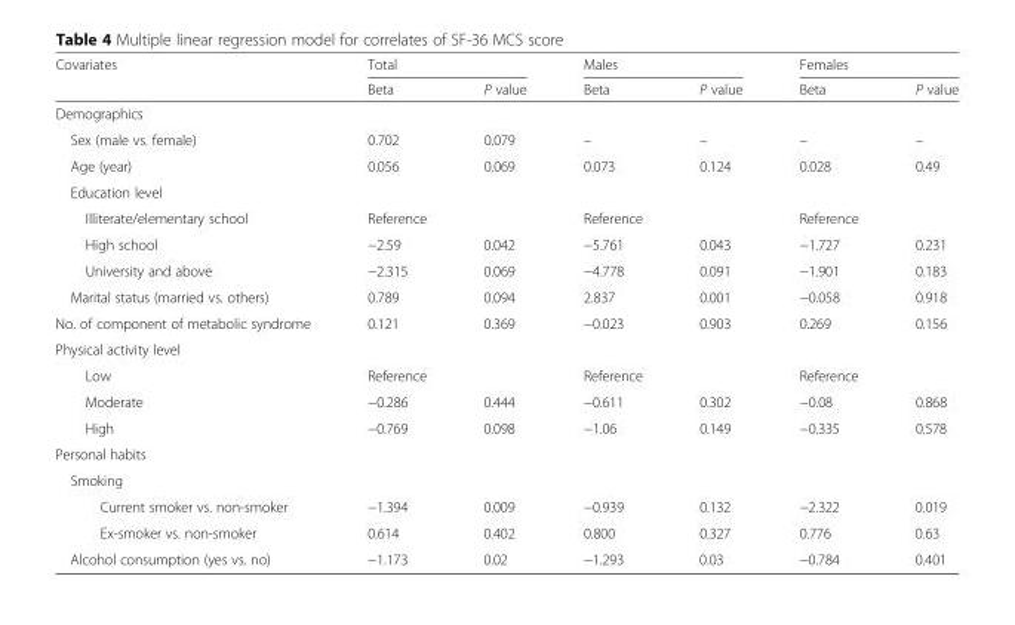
<table><thead><tr><td rowspan="2">Covariates</td><td colspan="2">Total</td><td colspan="2">Males</td><td colspan="2">Females</td></tr><tr><td>Beta</td><td>P value</td><td>Beta</td><td>P value</td><td>Beta</td><td>P value</td></tr></thead><tbody><tr><td colspan="7">Demographics</td></tr><tr><td>Sex (male vs. female)</td><td>0.702</td><td>0.079</td><td>–</td><td>–</td><td>–</td><td>–</td></tr><tr><td>Age (year)</td><td>0.056</td><td>0.069</td><td>0.073</td><td>0.124</td><td>0.028</td><td>0.49</td></tr><tr><td colspan="7">Education level</td></tr><tr><td>Illiterate/elementary school</td><td>Reference</td><td></td><td>Reference</td><td></td><td>Reference</td><td></td></tr><tr><td>High school</td><td>−2.59</td><td>0.042</td><td>−5.761</td><td>0.043</td><td>−1.727</td><td>0.231</td></tr><tr><td>University and above</td><td>−2.315</td><td>0.069</td><td>−4.778</td><td>0.091</td><td>−1.901</td><td>0.183</td></tr><tr><td>Marital status (married vs. others)</td><td>0.789</td><td>0.094</td><td>2.837</td><td>0.001</td><td>−0.058</td><td>0.918</td></tr><tr><td>No. of component of metabolic syndrome</td><td>0.121</td><td>0.369</td><td>−0.023</td><td>0.903</td><td>0.269</td><td>0.156</td></tr><tr><td colspan="7">Physical activity level</td></tr><tr><td>Low</td><td>Reference</td><td></td><td>Reference</td><td></td><td>Reference</td><td></td></tr><tr><td>Moderate</td><td>−0.286</td><td>0.444</td><td>−0.611</td><td>0.302</td><td>−0.08</td><td>0.868</td></tr><tr><td>High</td><td>−0.769</td><td>0.098</td><td>−1.06</td><td>0.149</td><td>−0.335</td><td>0.578</td></tr><tr><td colspan="7">Personal habits</td></tr><tr><td colspan="7">Smoking</td></tr><tr><td>Current smoker vs. non-smoker</td><td>−1.394</td><td>0.009</td><td>−0.939</td><td>0.132</td><td>−2.322</td><td>0.019</td></tr><tr><td>Ex-smoker vs. non-smoker</td><td>0.614</td><td>0.402</td><td>0.800</td><td>0.327</td><td>0.776</td><td>0.63</td></tr><tr><td>Alcohol consumption (yes vs. no)</td><td>−1.173</td><td>0.02</td><td>−1.293</td><td>0.03</td><td>−0.784</td><td>0.401</td></tr></tbody></table>